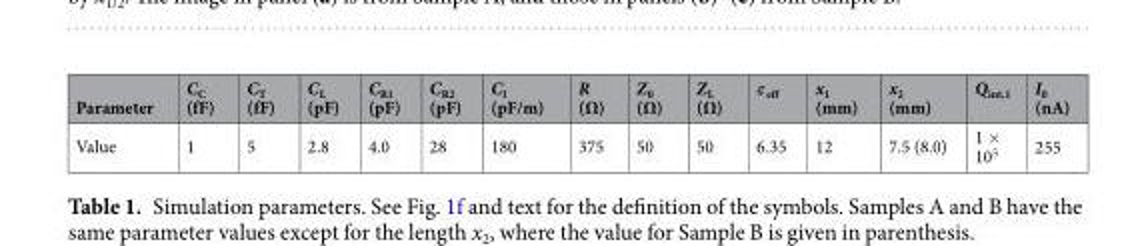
<table><thead><tr><td>Parameter</td><td>C<sub>C</sub> (fF)</td><td>C<sub>T</sub> (fF)</td><td>C<sub>L</sub> (pF)</td><td>C<sub>R1</sub> (pF)</td><td>C<sub>R2</sub> (pF)</td><td>C<sub>l</sub> (pF/m)</td><td>R (Ω)</td><td>Z<sub>0</sub> (Ω)</td><td>Z<sub>L</sub> (Ω)</td><td>ε<sub>eff</sub></td><td>x<sub>1</sub> (mm)</td><td>x<sub>2</sub> (mm)</td><td>Q<sub>int,1</sub></td><td>I<sub>0</sub> (nA)</td></tr></thead><tbody><tr><td>Value</td><td>1</td><td>5</td><td>2.8</td><td>4.0</td><td>28</td><td>180</td><td>375</td><td>50</td><td>50</td><td>6.35</td><td>12</td><td>7.5 (8.0)</td><td>1 × 10<sup>5</sup></td><td>255</td></tr></tbody></table>